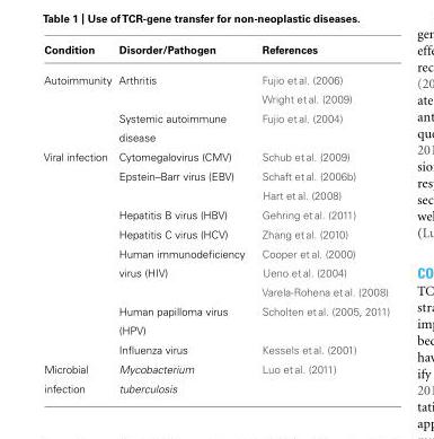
<table><thead><tr><td>Condition</td><td>Disorder/Pathogen</td><td>References</td></tr></thead><tbody><tr><td rowspan="3">Autoimmunity</td><td>Arthritis</td><td>Fujio et al. (2006)</td></tr><tr><td></td><td>Wright et al. (2009)</td></tr><tr><td>Systemic autoimmune disease</td><td>Fujio et al. (2004)</td></tr><tr><td rowspan="10">Viral infection</td><td>Cytomegalovirus (CMV)</td><td>Schub et al. (2009)</td></tr><tr><td>Epstein–Barr virus (EBV)</td><td>Schaft et al. (2006b)</td></tr><tr><td></td><td>Hart et al. (2008)</td></tr><tr><td>Hepatitis B virus (HBV)</td><td>Gehring et al. (2011)</td></tr><tr><td>Hepatitis C virus (HCV)</td><td>Zhang et al. (2010)</td></tr><tr><td>Human immunodeficiency</td><td>Cooper et al. (2000)</td></tr><tr><td>virus (HIV)</td><td>Ueno et al. (2004)</td></tr><tr><td></td><td>Varela-Rohena et al. (2008)</td></tr><tr><td>Human papilloma virus (HPV)</td><td>Scholten et al. (2005, 2011)</td></tr><tr><td>Influenza virus</td><td>Kessels et al. (2001)</td></tr><tr><td>Microbial</td><td>Mycobacterium</td><td>Luo et al. (2011)</td></tr><tr><td>infection</td><td>tuberculosis</td><td></td></tr></tbody></table>